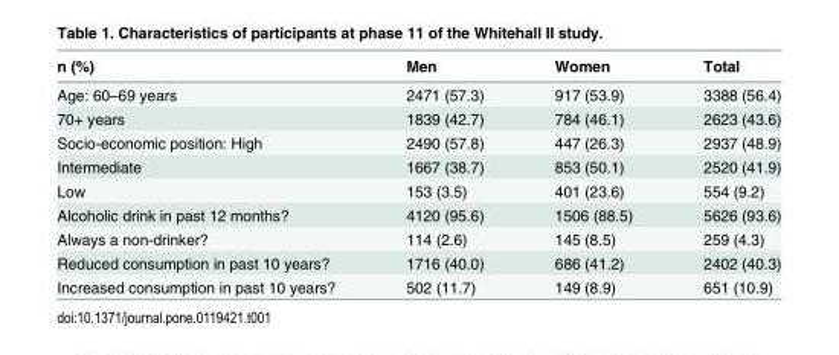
<table><thead><tr><td>n (%)</td><td>Men</td><td>Women</td><td>Total</td></tr></thead><tbody><tr><td>Age: 60–69 years</td><td>2471 (57.3)</td><td>917 (53.9)</td><td>3388 (56.4)</td></tr><tr><td>70+ years</td><td>1839 (42.7)</td><td>784 (46.1)</td><td>2623 (43.6)</td></tr><tr><td>Socio-economic position: High</td><td>2490 (57.8)</td><td>447 (26.3)</td><td>2937 (48.9)</td></tr><tr><td>Intermediate</td><td>1667 (38.7)</td><td>853 (50.1)</td><td>2520 (41.9)</td></tr><tr><td>Low</td><td>153 (3.5)</td><td>401 (23.6)</td><td>554 (9.2)</td></tr><tr><td>Alcoholic drink in past 12 months?</td><td>4120 (95.6)</td><td>1506 (88.5)</td><td>5626 (93.6)</td></tr><tr><td>Always a non-drinker?</td><td>114 (2.6)</td><td>145 (8.5)</td><td>259 (4.3)</td></tr><tr><td>Reduced consumption in past 10 years?</td><td>1716 (40.0)</td><td>686 (41.2)</td><td>2402 (40.3)</td></tr><tr><td>Increased consumption in past 10 years?</td><td>502 (11.7)</td><td>149 (8.9)</td><td>651 (10.9)</td></tr></tbody></table>